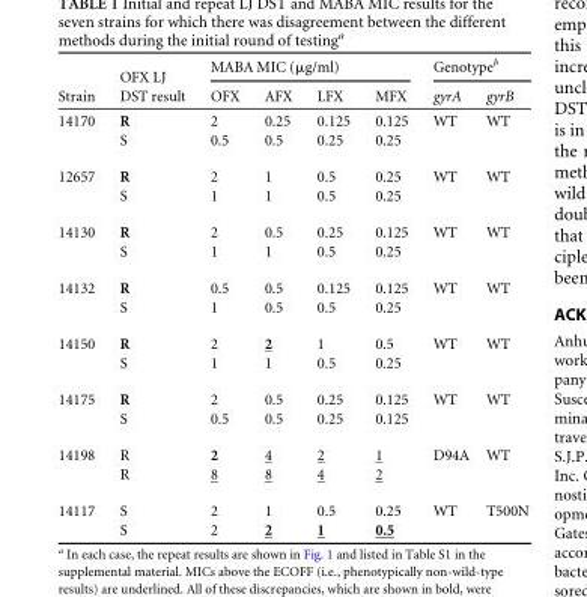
<table><thead><tr><td rowspan="2">Strain</td><td rowspan="2">OFX LJ DST result</td><td colspan="4">MABA MIC (μg/ml)</td><td colspan="2">Genotype<sup>b</sup></td></tr><tr><td>OFX</td><td>AFX</td><td>LFX</td><td>MFX</td><td>gyrA</td><td>gyrB</td></tr></thead><tbody><tr><td rowspan="2">14170</td><td>R</td><td>2</td><td>0.25</td><td>0.125</td><td>0.125</td><td>WT</td><td>WT</td></tr><tr><td>S</td><td>0.5</td><td>0.5</td><td>0.25</td><td>0.25</td><td></td><td></td></tr><tr><td rowspan="2">12657</td><td>R</td><td>2</td><td>1</td><td>0.5</td><td>0.25</td><td>WT</td><td>WT</td></tr><tr><td>S</td><td>1</td><td>1</td><td>0.5</td><td>0.25</td><td></td><td></td></tr><tr><td rowspan="2">14130</td><td>R</td><td>2</td><td>0.5</td><td>0.25</td><td>0.125</td><td>WT</td><td>WT</td></tr><tr><td>S</td><td>1</td><td>1</td><td>0.5</td><td>0.25</td><td></td><td></td></tr><tr><td rowspan="2">14132</td><td>R</td><td>0.5</td><td>0.5</td><td>0.125</td><td>0.125</td><td>WT</td><td>WT</td></tr><tr><td>S</td><td>1</td><td>0.5</td><td>0.5</td><td>0.25</td><td></td><td></td></tr><tr><td rowspan="2">14150</td><td>R</td><td>2</td><td>2</td><td>1</td><td>0.5</td><td>WT</td><td>WT</td></tr><tr><td>S</td><td>1</td><td>1</td><td>0.5</td><td>0.25</td><td></td><td></td></tr><tr><td rowspan="2">14175</td><td>R</td><td>2</td><td>0.5</td><td>0.25</td><td>0.125</td><td>WT</td><td>WT</td></tr><tr><td>S</td><td>0.5</td><td>0.5</td><td>0.25</td><td>0.125</td><td></td><td></td></tr><tr><td rowspan="2">14198</td><td>R</td><td>2</td><td>4</td><td>2</td><td>1</td><td>D94A</td><td>WT</td></tr><tr><td>R</td><td>8</td><td>8</td><td>4</td><td>2</td><td></td><td></td></tr><tr><td rowspan="2">14117</td><td>S</td><td>2</td><td>1</td><td>0.5</td><td>0.25</td><td>WT</td><td>T500N</td></tr><tr><td>S</td><td>2</td><td>2</td><td>1</td><td>0.5</td><td></td><td></td></tr></tbody></table>